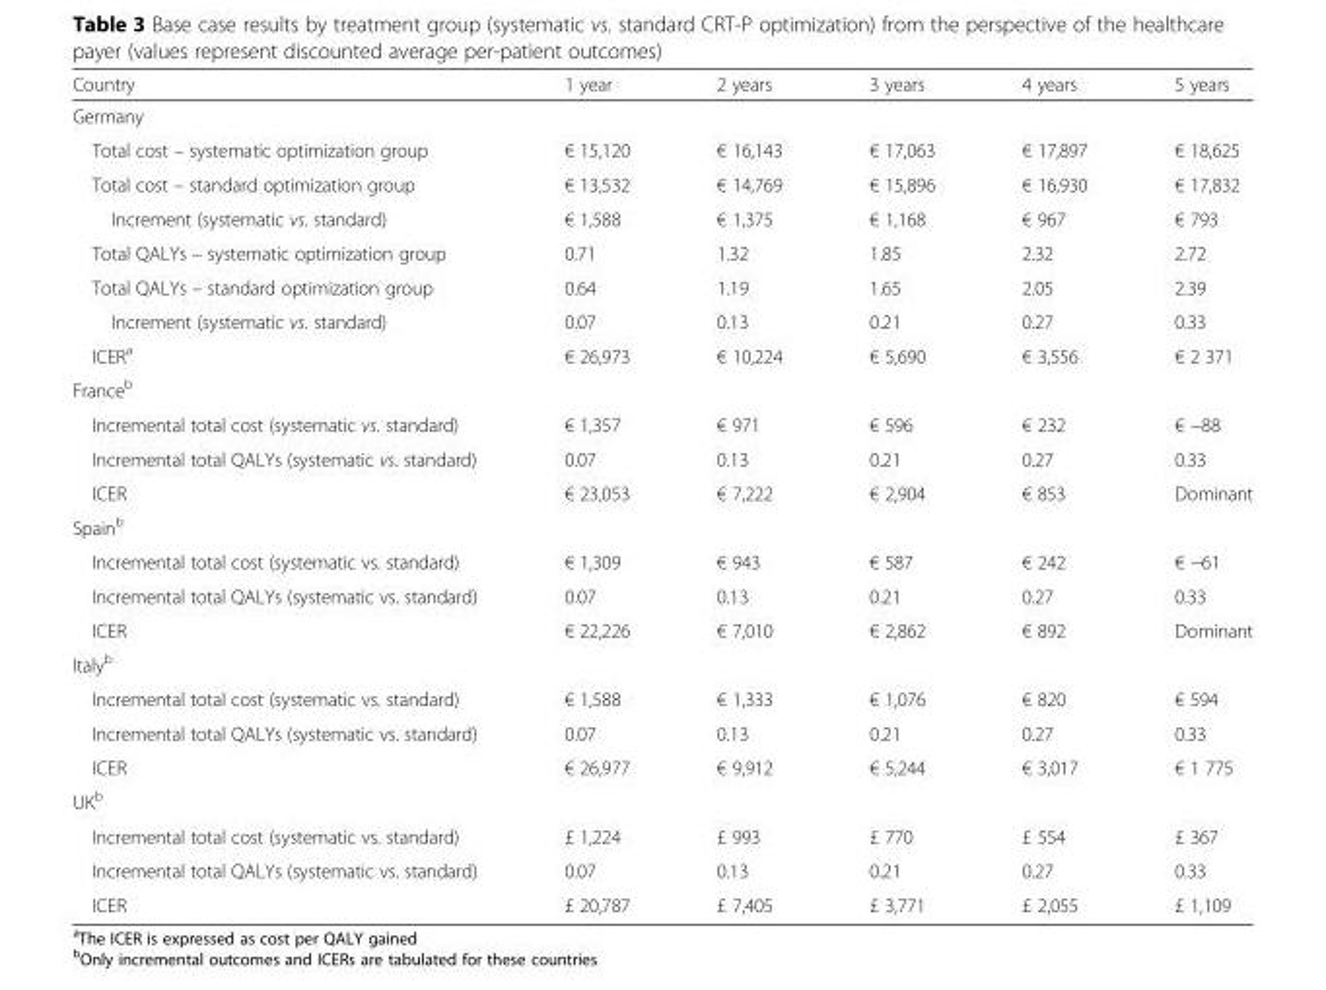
<table><thead><tr><td>Country</td><td>1 year</td><td>2 years</td><td>3 years</td><td>4 years</td><td>5 years</td></tr></thead><tbody><tr><td colspan="6">Germany</td></tr><tr><td>Total cost – systematic optimization group</td><td>€ 15,120</td><td>€ 16,143</td><td>€ 17,063</td><td>€ 17,897</td><td>€ 18,625</td></tr><tr><td>Total cost – standard optimization group</td><td>€ 13,532</td><td>€ 14,769</td><td>€ 15,896</td><td>€ 16,930</td><td>€ 17,832</td></tr><tr><td>Increment (systematic vs. standard)</td><td>€ 1,588</td><td>€ 1,375</td><td>€ 1,168</td><td>€ 967</td><td>€ 793</td></tr><tr><td>Total QALYs – systematic optimization group</td><td>0.71</td><td>1.32</td><td>1.85</td><td>2.32</td><td>2.72</td></tr><tr><td>Total QALYs – standard optimization group</td><td>0.64</td><td>1.19</td><td>1.65</td><td>2.05</td><td>2.39</td></tr><tr><td>Increment (systematic vs. standard)</td><td>0.07</td><td>0.13</td><td>0.21</td><td>0.27</td><td>0.33</td></tr><tr><td>ICER<sup>a</sup></td><td>€ 26,973</td><td>€ 10,224</td><td>€ 5,690</td><td>€ 3,556</td><td>€ 2 371</td></tr><tr><td colspan="6">France<sup>b</sup></td></tr><tr><td>Incremental total cost (systematic vs. standard)</td><td>€ 1,357</td><td>€ 971</td><td>€ 596</td><td>€ 232</td><td>€ −88</td></tr><tr><td>Incremental total QALYs (systematic vs. standard)</td><td>0.07</td><td>0.13</td><td>0.21</td><td>0.27</td><td>0.33</td></tr><tr><td>ICER</td><td>€ 23,053</td><td>€ 7,222</td><td>€ 2,904</td><td>€ 853</td><td>Dominant</td></tr><tr><td colspan="6">Spain<sup>b</sup></td></tr><tr><td>Incremental total cost (systematic vs. standard)</td><td>€ 1,309</td><td>€ 943</td><td>€ 587</td><td>€ 242</td><td>€ −61</td></tr><tr><td>Incremental total QALYs (systematic vs. standard)</td><td>0.07</td><td>0.13</td><td>0.21</td><td>0.27</td><td>0.33</td></tr><tr><td>ICER</td><td>€ 22,226</td><td>€ 7,010</td><td>€ 2,862</td><td>€ 892</td><td>Dominant</td></tr><tr><td colspan="6">Italy<sup>b</sup></td></tr><tr><td>Incremental total cost (systematic vs. standard)</td><td>€ 1,588</td><td>€ 1,333</td><td>€ 1,076</td><td>€ 820</td><td>€ 594</td></tr><tr><td>Incremental total QALYs (systematic vs. standard)</td><td>0.07</td><td>0.13</td><td>0.21</td><td>0.27</td><td>0.33</td></tr><tr><td>ICER</td><td>€ 26,977</td><td>€ 9,912</td><td>€ 5,244</td><td>€ 3,017</td><td>€ 1 775</td></tr><tr><td colspan="6">UK<sup>b</sup></td></tr><tr><td>Incremental total cost (systematic vs. standard)</td><td>£ 1,224</td><td>£ 993</td><td>£ 770</td><td>£ 554</td><td>£ 367</td></tr><tr><td>Incremental total QALYs (systematic vs. standard)</td><td>0.07</td><td>0.13</td><td>0.21</td><td>0.27</td><td>0.33</td></tr><tr><td>ICER</td><td>£ 20,787</td><td>£ 7,405</td><td>£ 3,771</td><td>£ 2,055</td><td>£ 1,109</td></tr></tbody></table>